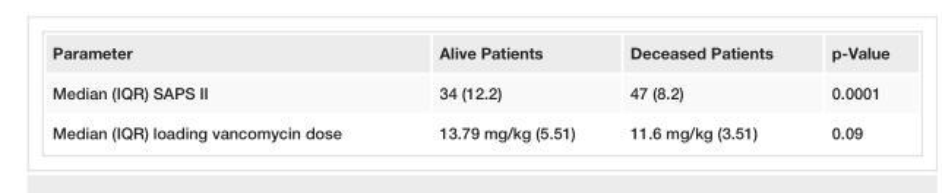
<table><tbody><tr><td>Parameter</td><td>Alive Patients</td><td>Deceased Patients</td><td>p-Value</td></tr><tr><td>Median (IQR) SAPS II</td><td>34 (12.2)</td><td>47 (8.2)</td><td>0.0001</td></tr><tr><td>Median (IQR) loading vancomycin dose</td><td>13.79 mg/kg (5.51)</td><td>11.6 mg/kg (3.51)</td><td>0.09</td></tr></tbody></table>